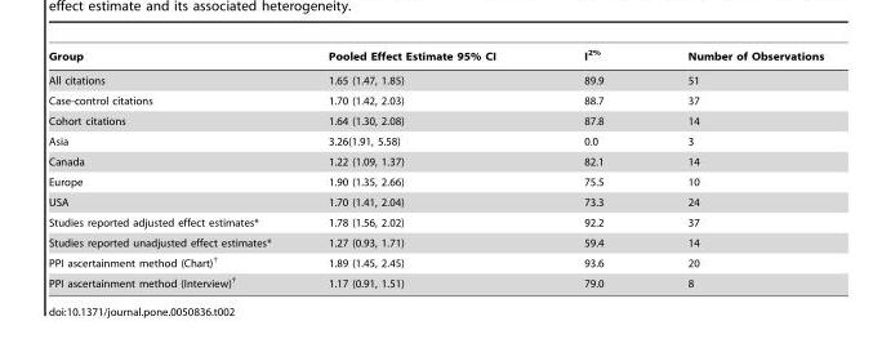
<table><thead><tr><td>Group</td><td>Pooled Effect Estimate 95% CI</td><td>I<sup>2%</sup></td><td>Number of Observations</td></tr></thead><tbody><tr><td>All citations</td><td>1.65 (1.47, 1.85)</td><td>89.9</td><td>51</td></tr><tr><td>Case-control citations</td><td>1.70 (1.42, 2.03)</td><td>88.7</td><td>37</td></tr><tr><td>Cohort citations</td><td>1.64 (1.30, 2.08)</td><td>87.8</td><td>14</td></tr><tr><td>Asia</td><td>3.26(1.91, 5.58)</td><td>0.0</td><td>3</td></tr><tr><td>Canada</td><td>1.22 (1.09, 1.37)</td><td>82.1</td><td>14</td></tr><tr><td>Europe</td><td>1.90 (1.35, 2.66)</td><td>75.5</td><td>10</td></tr><tr><td>USA</td><td>1.70 (1.41, 2.04)</td><td>73.3</td><td>24</td></tr><tr><td>Studies reported adjusted effect estimates*</td><td>1.78 (1.56, 2.02)</td><td>92.2</td><td>37</td></tr><tr><td>Studies reported unadjusted effect estimates*</td><td>1.27 (0.93, 1.71)</td><td>59.4</td><td>14</td></tr><tr><td>PPI ascertainment method (Chart)<sup>†</sup></td><td>1.89 (1.45, 2.45)</td><td>93.6</td><td>20</td></tr><tr><td>PPI ascertainment method (Interview)<sup>†</sup></td><td>1.17 (0.91, 1.51)</td><td>79.0</td><td>8</td></tr></tbody></table>